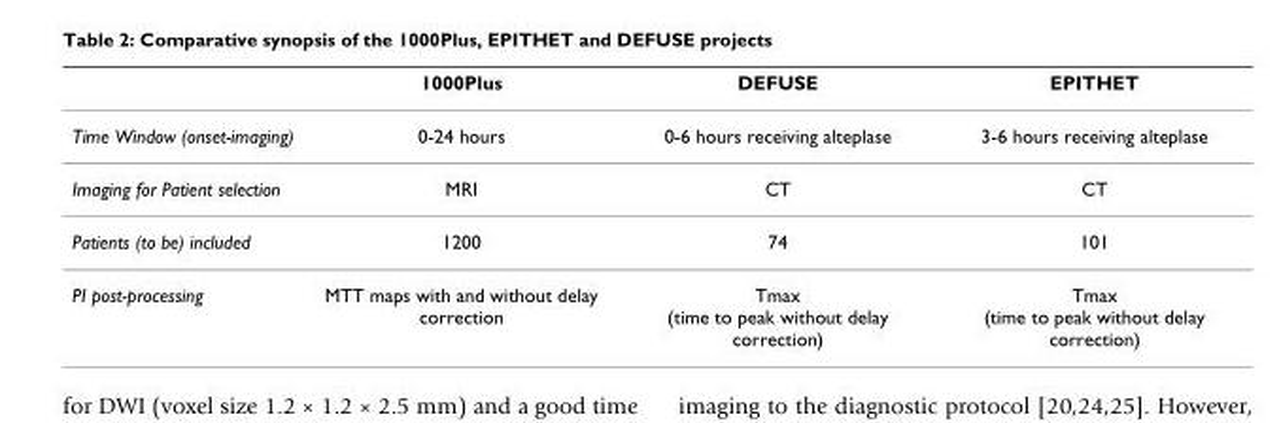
<table><thead><tr><td></td><td>1000Plus</td><td>DEFUSE</td><td>EPITHET</td></tr></thead><tbody><tr><td>Time Window (onset-imaging)</td><td>0-24 hours</td><td>0-6 hours receiving alteplase</td><td>3-6 hours receiving alteplase</td></tr><tr><td>Imaging for Patient selection</td><td>MRI</td><td>CT</td><td>CT</td></tr><tr><td>Patients (to be) included</td><td>1200</td><td>74</td><td>101</td></tr><tr><td>PI post-processing</td><td>MTT maps with and without delay correction</td><td>Tmax (time to peak without delay correction)</td><td>Tmax (time to peak without delay correction)</td></tr></tbody></table>